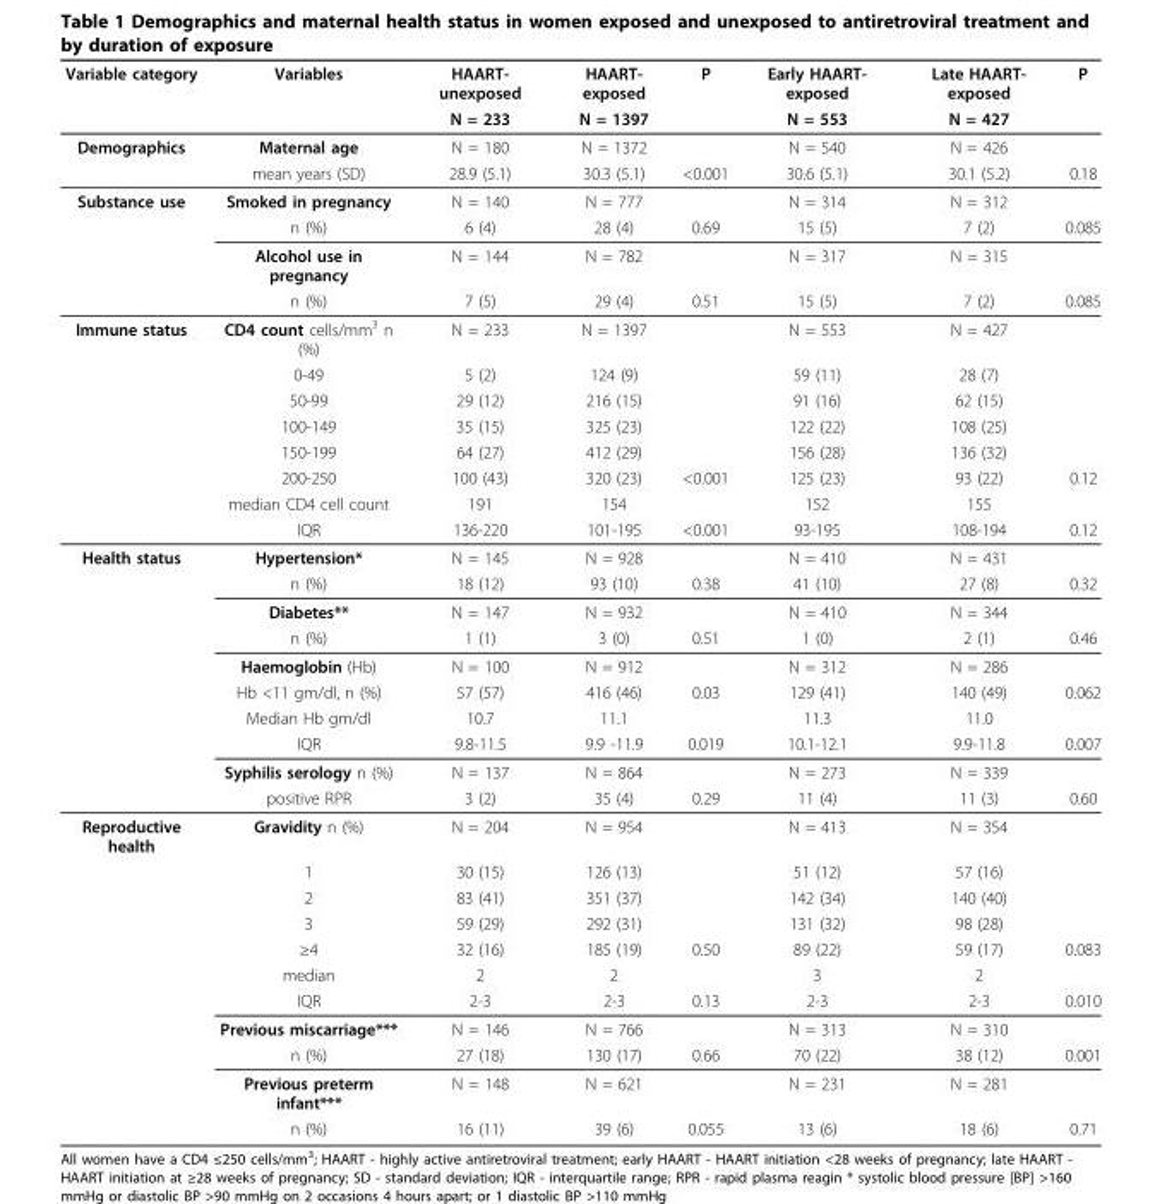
<table><thead><tr><td rowspan="2">Variable category</td><td rowspan="2">Variables</td><td rowspan="2">HAART- unexposed N = 233</td><td rowspan="2">HAART- exposed N = 1397</td><td rowspan="2">P</td><td rowspan="2">Early HAART- exposed N = 553</td><td rowspan="2">Late HAART- exposed N = 427</td><td rowspan="2">P</td></tr><tr></tr></thead><tbody><tr><td rowspan="2">Demographics</td><td>Maternal age</td><td>N = 180</td><td>N = 1372</td><td></td><td>N = 540</td><td>N = 426</td><td></td></tr><tr><td>mean years (SD)</td><td>28.9 (5.1)</td><td>30.3 (5.1)</td><td>&lt;0.001</td><td>30.6 (5.1)</td><td>30.1 (5.2)</td><td>0.18</td></tr><tr><td rowspan="4">Substance use</td><td>Smoked in pregnancy</td><td>N = 140</td><td>N = 777</td><td></td><td>N = 314</td><td>N = 312</td><td></td></tr><tr><td>n (%)</td><td>6 (4)</td><td>28 (4)</td><td>0.69</td><td>15 (5)</td><td>7 (2)</td><td>0.085</td></tr><tr><td>Alcohol use in pregnancy</td><td>N = 144</td><td>N = 782</td><td></td><td>N = 317</td><td>N = 315</td><td></td></tr><tr><td>n (%)</td><td>7 (5)</td><td>29 (4)</td><td>0.51</td><td>15 (5)</td><td>7 (2)</td><td>0.085</td></tr><tr><td rowspan="8">Immune status</td><td>CD4 count cells/mm<sup>3</sup> n (%)</td><td>N = 233</td><td>N = 1397</td><td></td><td>N = 553</td><td>N = 427</td><td></td></tr><tr><td>0-49</td><td>5 (2)</td><td>124 (9)</td><td></td><td>59 (11)</td><td>28 (7)</td><td></td></tr><tr><td>50-99</td><td>29 (12)</td><td>216 (15)</td><td></td><td>91 (16)</td><td>62 (15)</td><td></td></tr><tr><td>100-149</td><td>35 (15)</td><td>325 (23)</td><td></td><td>122 (22)</td><td>108 (25)</td><td></td></tr><tr><td>150-199</td><td>64 (27)</td><td>412 (29)</td><td></td><td>156 (28)</td><td>136 (32)</td><td></td></tr><tr><td>200-250</td><td>100 (43)</td><td>320 (23)</td><td>&lt;0.001</td><td>125 (23)</td><td>93 (22)</td><td>0.12</td></tr><tr><td>median CD4 cell count</td><td>191</td><td>154</td><td></td><td>152</td><td>155</td><td></td></tr><tr><td>IQR</td><td>136-220</td><td>101-195</td><td>&lt;0.001</td><td>93-195</td><td>108-194</td><td>0.12</td></tr><tr><td rowspan="10">Health status</td><td>Hypertension*</td><td>N = 145</td><td>N = 928</td><td></td><td>N = 410</td><td>N = 431</td><td></td></tr><tr><td>n (%)</td><td>18 (12)</td><td>93 (10)</td><td>0.38</td><td>41 (10)</td><td>27 (8)</td><td>0.32</td></tr><tr><td>Diabetes**</td><td>N = 147</td><td>N = 932</td><td></td><td>N = 410</td><td>N = 344</td><td></td></tr><tr><td>n (%)</td><td>1 (1)</td><td>3 (0)</td><td>0.51</td><td>1 (0)</td><td>2 (1)</td><td>0.46</td></tr><tr><td>Haemoglobin (Hb)</td><td>N = 100</td><td>N = 912</td><td></td><td>N = 312</td><td>N = 286</td><td></td></tr><tr><td>Hb &lt;11 gm/dl, n (%)</td><td>57 (57)</td><td>416 (46)</td><td>0.03</td><td>129 (41)</td><td>140 (49)</td><td>0.062</td></tr><tr><td>Median Hb gm/dl</td><td>10.7</td><td>11.1</td><td></td><td>11.3</td><td>11.0</td><td></td></tr><tr><td>IQR</td><td>9.8-11.5</td><td>9.9 -11.9</td><td>0.019</td><td>10.1-12.1</td><td>9.9-11.8</td><td>0.007</td></tr><tr><td>Syphilis serology n (%)</td><td>N = 137</td><td>N = 864</td><td></td><td>N = 273</td><td>N = 339</td><td></td></tr><tr><td>positive RPR</td><td>3 (2)</td><td>35 (4)</td><td>0.29</td><td>11 (4)</td><td>11 (3)</td><td>0.60</td></tr><tr><td rowspan="11">Reproductive health</td><td>Gravidity n (%)</td><td>N = 204</td><td>N = 954</td><td></td><td>N = 413</td><td>N = 354</td><td></td></tr><tr><td>1</td><td>30 (15)</td><td>126 (13)</td><td></td><td>51 (12)</td><td>57 (16)</td><td></td></tr><tr><td>2</td><td>83 (41)</td><td>351 (37)</td><td></td><td>142 (34)</td><td>140 (40)</td><td></td></tr><tr><td>3</td><td>59 (29)</td><td>292 (31)</td><td></td><td>131 (32)</td><td>98 (28)</td><td></td></tr><tr><td>≥4</td><td>32 (16)</td><td>185 (19)</td><td>0.50</td><td>89 (22)</td><td>59 (17)</td><td>0.083</td></tr><tr><td>median</td><td>2</td><td>2</td><td></td><td>3</td><td>2</td><td></td></tr><tr><td>IQR</td><td>2-3</td><td>2-3</td><td>0.13</td><td>2-3</td><td>2-3</td><td>0.010</td></tr><tr><td>Previous miscarriage***</td><td>N = 146</td><td>N = 766</td><td></td><td>N = 313</td><td>N = 310</td><td></td></tr><tr><td>n (%)</td><td>27 (18)</td><td>130 (17)</td><td>0.66</td><td>70 (22)</td><td>38 (12)</td><td>0.001</td></tr><tr><td>Previous preterm infant***</td><td>N = 148</td><td>N = 621</td><td></td><td>N = 231</td><td>N = 281</td><td></td></tr><tr><td>n (%)</td><td>16 (11)</td><td>39 (6)</td><td>0.055</td><td>13 (6)</td><td>18 (6)</td><td>0.71</td></tr></tbody></table>